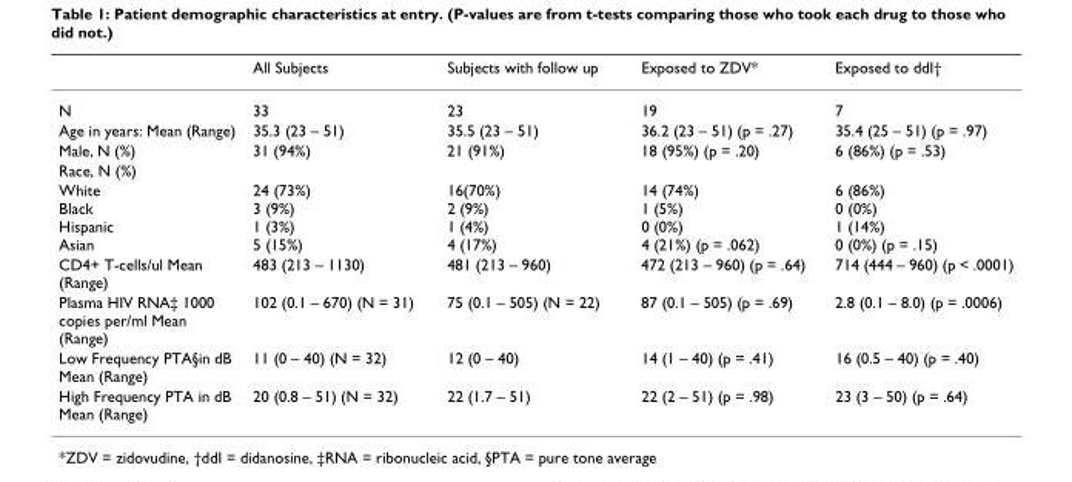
<table><thead><tr><td></td><td>All Subjects</td><td>Subjects with follow up</td><td>Exposed to ZDV*</td><td>Exposed to ddI†</td></tr></thead><tbody><tr><td>N</td><td>33</td><td>23</td><td>19</td><td>7</td></tr><tr><td>Age in years: Mean (Range)</td><td>35.3 (23 – 51)</td><td>35.5 (23 – 51)</td><td>36.2 (23 – 51) (p = .27)</td><td>35.4 (25 – 51) (p = .97)</td></tr><tr><td>Male, N (%)</td><td>31 (94%)</td><td>21 (91%)</td><td>18 (95%) (p = .20)</td><td>6 (86%) (p = .53)</td></tr><tr><td colspan="5">Race, N (%)</td></tr><tr><td>White Black Hispanic Asian</td><td>24 (73%) 3 (9%) 1 (3%) 5 (15%)</td><td>16(70%) 2 (9%) 1 (4%) 4 (17%)</td><td>14 (74%) 1 (5%) 0 (0%) 4 (21%) (p = .062)</td><td>6 (86%) 0 (0%) 1 (14%) 0 (0%) (p = .15)</td></tr><tr><td>CD4+ T-cells/ul Mean (Range)</td><td>483 (213 – 1130)</td><td>481 (213 – 960)</td><td>472 (213 – 960) (p = .64)</td><td>714 (444 – 960) (p &lt; .0001)</td></tr><tr><td>Plasma HIV RNA‡ 1000 copies per/ml Mean (Range)</td><td>102 (0.1 – 670) (N = 31)</td><td>75 (0.1 – 505) (N = 22)</td><td>87 (0.1 – 505) (p = .69)</td><td>2.8 (0.1 – 8.0) (p = .0006)</td></tr><tr><td>Low Frequency PTA§in dB Mean (Range)</td><td>11 (0 – 40) (N = 32)</td><td>12 (0 – 40)</td><td>14 (1 – 40) (p = .41)</td><td>16 (0.5 – 40) (p = .40)</td></tr><tr><td>High Frequency PTA in dB Mean (Range)</td><td>20 (0.8 – 51) (N = 32)</td><td>22 (1.7 – 51)</td><td>22 (2 – 51) (p = .98)</td><td>23 (3 – 50) (p = .64)</td></tr></tbody></table>